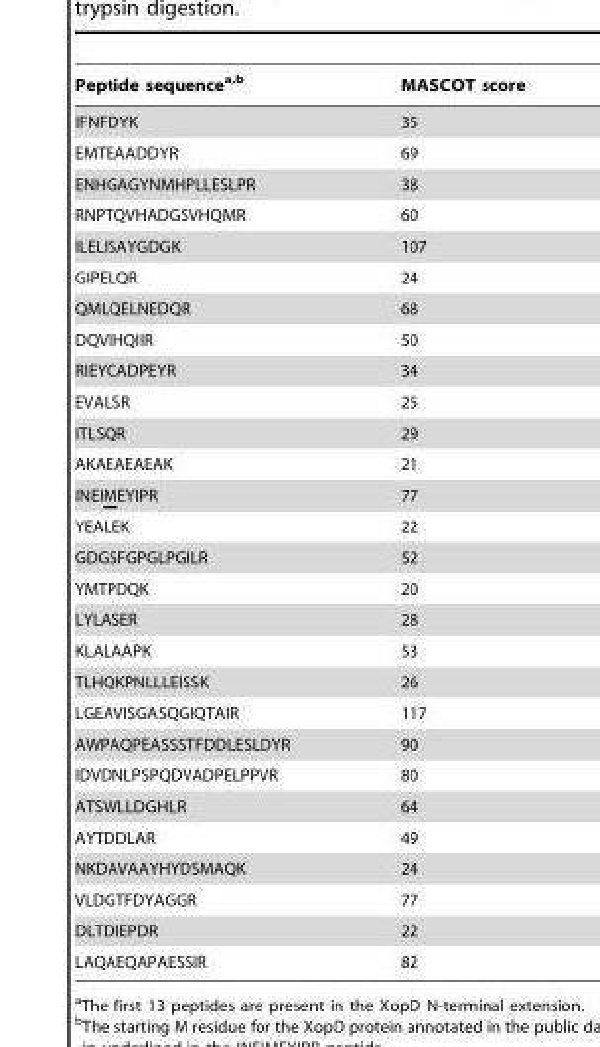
<table><thead><tr><td>Peptide sequencea,b</td><td>MASCOT score</td></tr></thead><tbody><tr><td>IFNFDYK</td><td>35</td></tr><tr><td>EMTEAADDYR</td><td>69</td></tr><tr><td>ENHGAGYNMHPLLESLPR</td><td>38</td></tr><tr><td>RNPTQVHADGSVHQMR</td><td>60</td></tr><tr><td>ILELISAYGDGK</td><td>107</td></tr><tr><td>GIPELQR</td><td>24</td></tr><tr><td>QMLQELNEDQR</td><td>68</td></tr><tr><td>DQVIHQIIR</td><td>50</td></tr><tr><td>RIEYCADPEYR</td><td>34</td></tr><tr><td>EVALSR</td><td>25</td></tr><tr><td>ITLSQR</td><td>29</td></tr><tr><td>AKAEAEAEAK</td><td>21</td></tr><tr><td>INEIMEYIPR</td><td>77</td></tr><tr><td>YEALEK</td><td>22</td></tr><tr><td>GDGSFGPGLPGILR</td><td>52</td></tr><tr><td>YMTPDQK</td><td>20</td></tr><tr><td>LYLASER</td><td>28</td></tr><tr><td>KLALAAPK</td><td>53</td></tr><tr><td>TLHQKPNLLLEISSK</td><td>26</td></tr><tr><td>LGEAVISGASQGIQTAIR</td><td>117</td></tr><tr><td>AWPAQPEASSSTFDDLESLDYR</td><td>90</td></tr><tr><td>IDVDNLPSPQDVADPELPPVR</td><td>80</td></tr><tr><td>ATSWLLDGHLR</td><td>64</td></tr><tr><td>AYTDDLAR</td><td>49</td></tr><tr><td>NKDAVAAYHYDSMAQK</td><td>24</td></tr><tr><td>VLDGTFDYAGGR</td><td>77</td></tr><tr><td>DLTDIEPDR</td><td>22</td></tr><tr><td>LAQAEQAPAESSIR</td><td>82</td></tr></tbody></table>